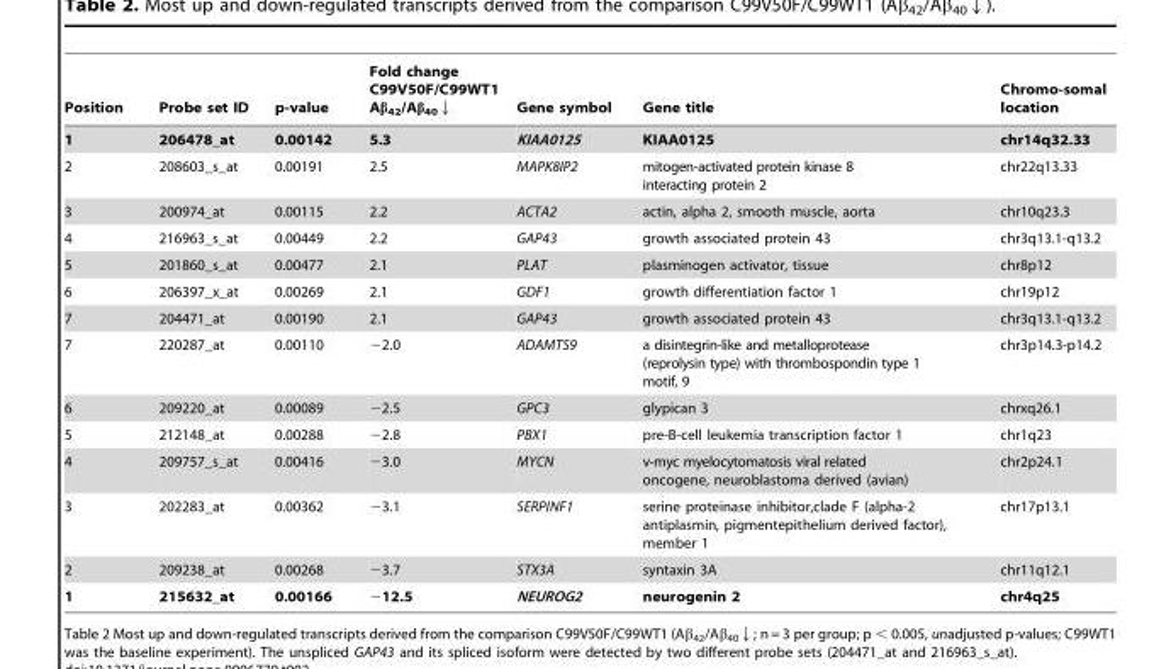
<table><thead><tr><td>Position</td><td>Probe set ID</td><td>p-value</td><td>Fold change C99V50F/C99WT1 Aβ<sub>42</sub>/Aβ<sub>40</sub>↓</td><td>Gene symbol</td><td>Gene title</td><td>Chromo-somal location</td></tr></thead><tbody><tr><td>1</td><td>206478_at</td><td>0.00142</td><td>5.3</td><td>KIAA0125</td><td>KIAA0125</td><td>chr14q32.33</td></tr><tr><td>2</td><td>208603_s_at</td><td>0.00191</td><td>2.5</td><td>MAPK8IP2</td><td>mitogen-activated protein kinase 8 interacting protein 2</td><td>chr22q13.33</td></tr><tr><td>3</td><td>200974_at</td><td>0.00115</td><td>2.2</td><td>ACTA2</td><td>actin, alpha 2, smooth muscle, aorta</td><td>chr10q23.3</td></tr><tr><td>4</td><td>216963_s_at</td><td>0.00449</td><td>2.2</td><td>GAP43</td><td>growth associated protein 43</td><td>chr3q13.1-q13.2</td></tr><tr><td>5</td><td>201860_s_at</td><td>0.00477</td><td>2.1</td><td>PLAT</td><td>plasminogen activator, tissue</td><td>chr8p12</td></tr><tr><td>6</td><td>206397_x_at</td><td>0.00269</td><td>2.1</td><td>GDF1</td><td>growth differentiation factor 1</td><td>chr19p12</td></tr><tr><td>7</td><td>204471_at</td><td>0.00190</td><td>2.1</td><td>GAP43</td><td>growth associated protein 43</td><td>chr3q13.1-q13.2</td></tr><tr><td>7</td><td>220287_at</td><td>0.00110</td><td>−2.0</td><td>ADAMTS9</td><td>a disintegrin-like and metalloprotease (reprolysin type) with thrombospondin type 1 motif, 9</td><td>chr3p14.3-p14.2</td></tr><tr><td>6</td><td>209220_at</td><td>0.00089</td><td>−2.5</td><td>GPC3</td><td>glypican 3</td><td>chrxq26.1</td></tr><tr><td>5</td><td>212148_at</td><td>0.00288</td><td>−2.8</td><td>PBX1</td><td>pre-B-cell leukemia transcription factor 1</td><td>chr1q23</td></tr><tr><td>4</td><td>209757_s_at</td><td>0.00416</td><td>−3.0</td><td>MYCN</td><td>v-myc myelocytomatosis viral related oncogene, neuroblastoma derived (avian)</td><td>chr2p24.1</td></tr><tr><td>3</td><td>202283_at</td><td>0.00362</td><td>−3.1</td><td>SERPINF1</td><td>serine proteinase inhibitor,clade F (alpha-2 antiplasmin, pigmentepithelium derived factor), member 1</td><td>chr17p13.1</td></tr><tr><td>2</td><td>209238_at</td><td>0.00268</td><td>−3.7</td><td>STX3A</td><td>syntaxin 3A</td><td>chr11q12.1</td></tr><tr><td>1</td><td>215632_at</td><td>0.00166</td><td>−12.5</td><td>NEUROG2</td><td>neurogenin 2</td><td>chr4q25</td></tr></tbody></table>